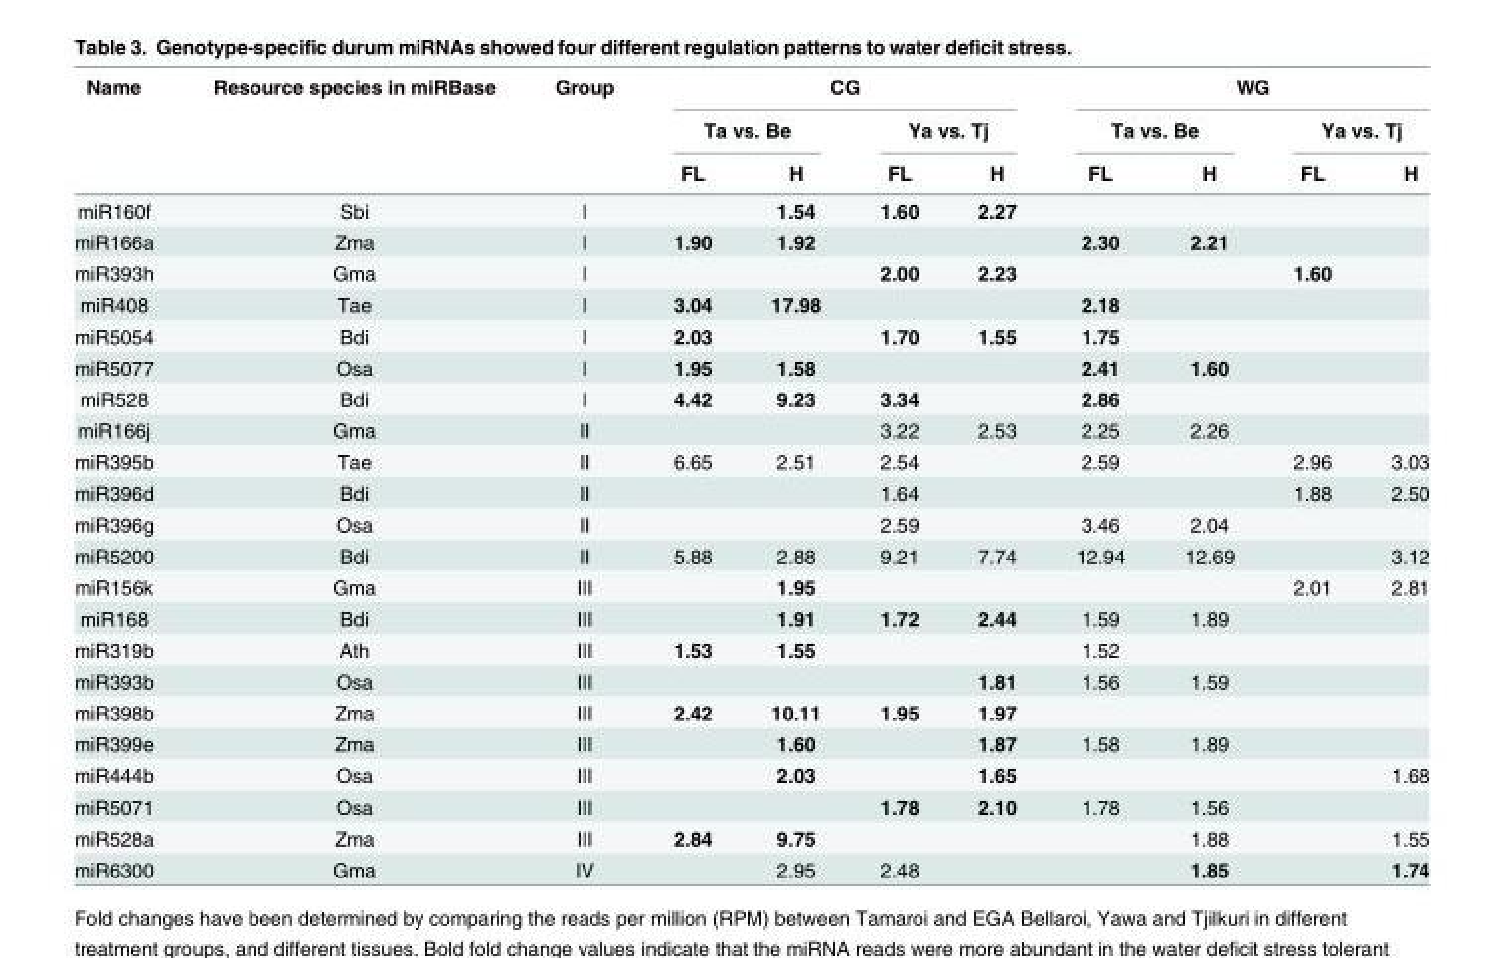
<table><thead><tr><td rowspan="3">Name</td><td rowspan="3">Resource species in miRBase</td><td rowspan="3">Group</td><td colspan="4">CG</td><td colspan="4">WG</td></tr><tr><td colspan="2">Ta vs. Be</td><td colspan="2">Ya vs. Tj</td><td colspan="2">Ta vs. Be</td><td colspan="2">Ya vs. Tj</td></tr><tr><td>FL</td><td>H</td><td>FL</td><td>H</td><td>FL</td><td>H</td><td>FL</td><td>H</td></tr></thead><tbody><tr><td>miR160f</td><td>Sbi</td><td>I</td><td></td><td>1.54</td><td>1.60</td><td>2.27</td><td></td><td></td><td></td><td></td></tr><tr><td>miR166a</td><td>Zma</td><td>I</td><td>1.90</td><td>1.92</td><td></td><td></td><td>2.30</td><td>2.21</td><td></td><td></td></tr><tr><td>miR393h</td><td>Gma</td><td>I</td><td></td><td></td><td>2.00</td><td>2.23</td><td></td><td></td><td>1.60</td><td></td></tr><tr><td>miR408</td><td>Tae</td><td>I</td><td>3.04</td><td>17.98</td><td></td><td></td><td>2.18</td><td></td><td></td><td></td></tr><tr><td>miR5054</td><td>Bdi</td><td>I</td><td>2.03</td><td></td><td>1.70</td><td>1.55</td><td>1.75</td><td></td><td></td><td></td></tr><tr><td>miR5077</td><td>Osa</td><td>I</td><td>1.95</td><td>1.58</td><td></td><td></td><td>2.41</td><td>1.60</td><td></td><td></td></tr><tr><td>miR528</td><td>Bdi</td><td>I</td><td>4.42</td><td>9.23</td><td>3.34</td><td></td><td>2.86</td><td></td><td></td><td></td></tr><tr><td>miR166j</td><td>Gma</td><td>II</td><td></td><td></td><td>3.22</td><td>2.53</td><td>2.25</td><td>2.26</td><td></td><td></td></tr><tr><td>miR395b</td><td>Tae</td><td>II</td><td>6.65</td><td>2.51</td><td>2.54</td><td></td><td>2.59</td><td></td><td>2.96</td><td>3.03</td></tr><tr><td>miR396d</td><td>Bdi</td><td>II</td><td></td><td></td><td>1.64</td><td></td><td></td><td></td><td>1.88</td><td>2.50</td></tr><tr><td>miR396g</td><td>Osa</td><td>II</td><td></td><td></td><td>2.59</td><td></td><td>3.46</td><td>2.04</td><td></td><td></td></tr><tr><td>miR5200</td><td>Bdi</td><td>II</td><td>5.88</td><td>2.88</td><td>9.21</td><td>7.74</td><td>12.94</td><td>12.69</td><td></td><td>3.12</td></tr><tr><td>miR156k</td><td>Gma</td><td>III</td><td></td><td>1.95</td><td></td><td></td><td></td><td></td><td>2.01</td><td>2.81</td></tr><tr><td>miR168</td><td>Bdi</td><td>III</td><td></td><td>1.91</td><td>1.72</td><td>2.44</td><td>1.59</td><td>1.89</td><td></td><td></td></tr><tr><td>miR319b</td><td>Ath</td><td>III</td><td>1.53</td><td>1.55</td><td></td><td></td><td>1.52</td><td></td><td></td><td></td></tr><tr><td>miR393b</td><td>Osa</td><td>III</td><td></td><td></td><td></td><td>1.81</td><td>1.56</td><td>1.59</td><td></td><td></td></tr><tr><td>miR398b</td><td>Zma</td><td>III</td><td>2.42</td><td>10.11</td><td>1.95</td><td>1.97</td><td></td><td></td><td></td><td></td></tr><tr><td>miR399e</td><td>Zma</td><td>III</td><td></td><td>1.60</td><td></td><td>1.87</td><td>1.58</td><td>1.89</td><td></td><td></td></tr><tr><td>miR444b</td><td>Osa</td><td>III</td><td></td><td>2.03</td><td></td><td>1.65</td><td></td><td></td><td></td><td>1.68</td></tr><tr><td>miR5071</td><td>Osa</td><td>III</td><td></td><td></td><td>1.78</td><td>2.10</td><td>1.78</td><td>1.56</td><td></td><td></td></tr><tr><td>miR528a</td><td>Zma</td><td>III</td><td>2.84</td><td>9.75</td><td></td><td></td><td></td><td>1.88</td><td></td><td>1.55</td></tr><tr><td>miR6300</td><td>Gma</td><td>IV</td><td></td><td>2.95</td><td>2.48</td><td></td><td></td><td>1.85</td><td></td><td>1.74</td></tr></tbody></table>